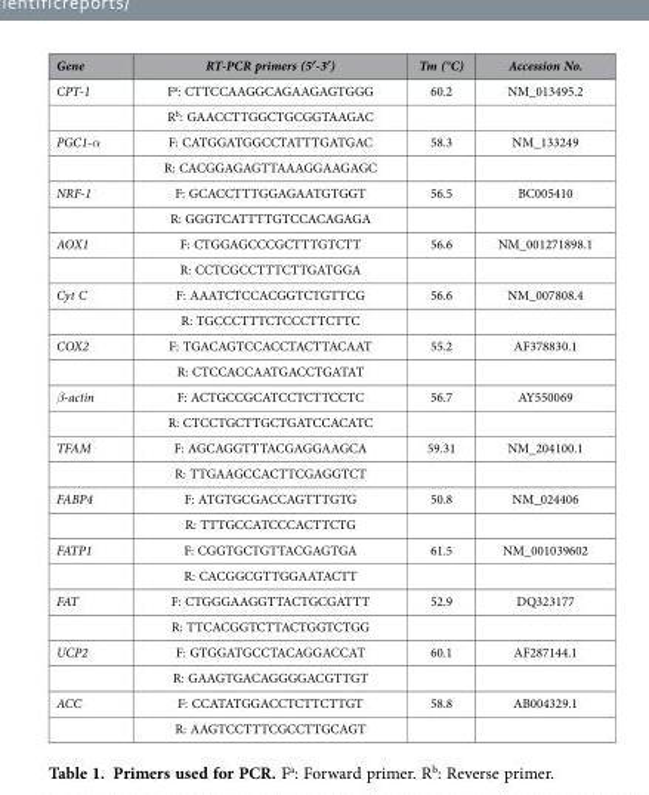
<table><thead><tr><td>Gene</td><td>RT-PCR primers (5′-3′)</td><td>Tm (°C)</td><td>Accession No.</td></tr></thead><tbody><tr><td rowspan="2">CPT-1</td><td>F<sup>a</sup>: CTTCCAAGGCAGAAGAGTGGG</td><td>60.2</td><td>NM_013495.2</td></tr><tr><td>R<sup>b</sup>: GAACCTTGGCTGCGGTAAGAC</td><td></td><td></td></tr><tr><td rowspan="2">PGC1-α</td><td>F: CATGGATGGCCTATTTGATGAC</td><td>58.3</td><td>NM_133249</td></tr><tr><td>R: CACGGAGAGTTAAAGGAAGAGC</td><td></td><td></td></tr><tr><td rowspan="2">NRF-1</td><td>F: GCACCTTTGGAGAATGTGGT</td><td>56.5</td><td>BC005410</td></tr><tr><td>R: GGGTCATTTTGTCCACAGAGA</td><td></td><td></td></tr><tr><td rowspan="2">AOX1</td><td>F: CTGGAGCCCGCTTTGTCTT</td><td>56.6</td><td>NM_001271898.1</td></tr><tr><td>R: CCTCGCCTTTCTTGATGGA</td><td></td><td></td></tr><tr><td rowspan="2">Cyt C</td><td>F: AAATCTCCACGGTCTGTTCG</td><td>56.6</td><td>NM_007808.4</td></tr><tr><td>R: TGCCCTTTCTCCCTTCTTC</td><td></td><td></td></tr><tr><td rowspan="2">COX2</td><td>F: TGACAGTCCACCTACTTACAAT</td><td>55.2</td><td>AF378830.1</td></tr><tr><td>R: CTCCACCAATGACCTGATAT</td><td></td><td></td></tr><tr><td rowspan="2">β-actin</td><td>F: ACTGCCGCATCCTCTTCCTC</td><td>56.7</td><td>AY550069</td></tr><tr><td>R: CTCCTGCTTGCTGATCCACATC</td><td></td><td></td></tr><tr><td rowspan="2">TFAM</td><td>F: AGCAGGTTTACGAGGAAGCA</td><td>59.31</td><td>NM_204100.1</td></tr><tr><td>R: TTGAAGCCACTTCGAGGTCT</td><td></td><td></td></tr><tr><td rowspan="2">FABP4</td><td>F: ATGTGCGACCAGTTTGTG</td><td>50.8</td><td>NM_024406</td></tr><tr><td>R: TTTGCCATCCCACTTCTG</td><td></td><td></td></tr><tr><td rowspan="2">FATP1</td><td>F: CGGTGCTGTTACGAGTGA</td><td>61.5</td><td>NM_001039602</td></tr><tr><td>R: CACGGCGTTGGAATACTT</td><td></td><td></td></tr><tr><td rowspan="2">FAT</td><td>F: CTGGGAAGGTTACTGCGATTT</td><td>52.9</td><td>DQ323177</td></tr><tr><td>R: TTCACGGTCTTACTGGTCTGG</td><td></td><td></td></tr><tr><td rowspan="2">UCP2</td><td>F: GTGGATGCCTACAGGACCAT</td><td>60.1</td><td>AF287144.1</td></tr><tr><td>R: GAAGTGACAGGGGACGTTGT</td><td></td><td></td></tr><tr><td rowspan="2">ACC</td><td>F: CCATATGGACCTCTTCTTGT</td><td>58.8</td><td>AB004329.1</td></tr><tr><td>R: AAGTCCTTTCGCCTTGCAGT</td><td></td><td></td></tr></tbody></table>